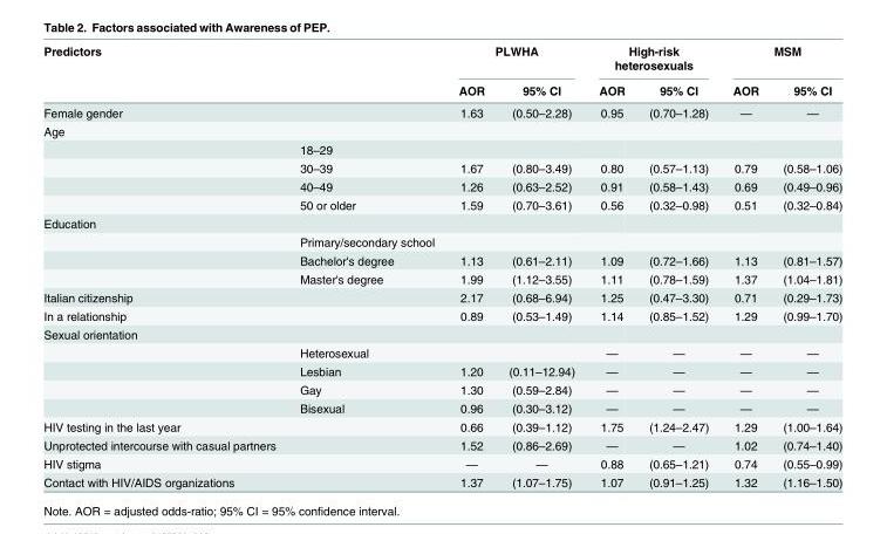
<table><thead><tr><td colspan="2">Predictors</td><td colspan="2">PLWHA</td><td colspan="2">High-risk heterosexuals</td><td colspan="2">MSM</td></tr><tr><td></td><td></td><td>AOR</td><td>95% CI</td><td>AOR</td><td>95% CI</td><td>AOR</td><td>95% CI</td></tr></thead><tbody><tr><td>Female gender</td><td></td><td>1.63</td><td>(0.50–2.28)</td><td>0.95</td><td>(0.70–1.28)</td><td>—</td><td>—</td></tr><tr><td colspan="8">Age</td></tr><tr><td></td><td>18–29</td><td></td><td></td><td></td><td></td><td></td><td></td></tr><tr><td></td><td>30–39</td><td>1.67</td><td>(0.80–3.49)</td><td>0.80</td><td>(0.57–1.13)</td><td>0.79</td><td>(0.58–1.06)</td></tr><tr><td></td><td>40–49</td><td>1.26</td><td>(0.63–2.52)</td><td>0.91</td><td>(0.58–1.43)</td><td>0.69</td><td>(0.49–0.96)</td></tr><tr><td></td><td>50 or older</td><td>1.59</td><td>(0.70–3.61)</td><td>0.56</td><td>(0.32–0.98)</td><td>0.51</td><td>(0.32–0.84)</td></tr><tr><td colspan="8">Education</td></tr><tr><td></td><td>Primary/secondary school</td><td></td><td></td><td></td><td></td><td></td><td></td></tr><tr><td></td><td>Bachelor&#x27;s degree</td><td>1.13</td><td>(0.61–2.11)</td><td>1.09</td><td>(0.72–1.66)</td><td>1.13</td><td>(0.81–1.57)</td></tr><tr><td></td><td>Master&#x27;s degree</td><td>1.99</td><td>(1.12–3.55)</td><td>1.11</td><td>(0.78–1.59)</td><td>1.37</td><td>(1.04–1.81)</td></tr><tr><td>Italian citizenship</td><td></td><td>2.17</td><td>(0.68–6.94)</td><td>1.25</td><td>(0.47–3.30)</td><td>0.71</td><td>(0.29–1.73)</td></tr><tr><td>In a relationship</td><td></td><td>0.89</td><td>(0.53–1.49)</td><td>1.14</td><td>(0.85–1.52)</td><td>1.29</td><td>(0.99–1.70)</td></tr><tr><td colspan="8">Sexual orientation</td></tr><tr><td></td><td>Heterosexual</td><td></td><td></td><td>—</td><td>—</td><td>—</td><td>—</td></tr><tr><td></td><td>Lesbian</td><td>1.20</td><td>(0.11–12.94)</td><td>—</td><td>—</td><td>—</td><td>—</td></tr><tr><td></td><td>Gay</td><td>1.30</td><td>(0.59–2.84)</td><td>—</td><td>—</td><td>—</td><td>—</td></tr><tr><td></td><td>Bisexual</td><td>0.96</td><td>(0.30–3.12)</td><td>—</td><td>—</td><td>—</td><td>—</td></tr><tr><td>HIV testing in the last year</td><td></td><td>0.66</td><td>(0.39–1.12)</td><td>1.75</td><td>(1.24–2.47)</td><td>1.29</td><td>(1.00–1.64)</td></tr><tr><td>Unprotected intercourse with casual partners</td><td></td><td>1.52</td><td>(0.86–2.69)</td><td>—</td><td>—</td><td>1.02</td><td>(0.74–1.40)</td></tr><tr><td>HIV stigma</td><td></td><td>—</td><td>—</td><td>0.88</td><td>(0.65–1.21)</td><td>0.74</td><td>(0.55–0.99)</td></tr><tr><td>Contact with HIV/AIDS organizations</td><td></td><td>1.37</td><td>(1.07–1.75)</td><td>1.07</td><td>(0.91–1.25)</td><td>1.32</td><td>(1.16–1.50)</td></tr></tbody></table>